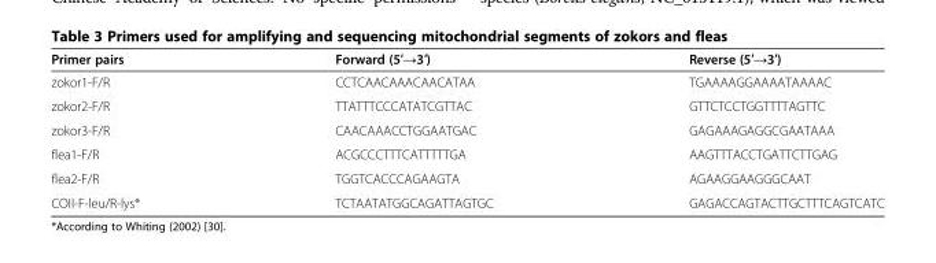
<table><thead><tr><td>Primer pairs</td><td>Forward (5′→3′)</td><td>Reverse (5′→3′)</td></tr></thead><tbody><tr><td>zokor1-F/R</td><td>CCTCAACAAACAACATAA</td><td>TGAAAAGGAAAATAAAAC</td></tr><tr><td>zokor2-F/R</td><td>TTATTTCCCATATCGTTAC</td><td>GTTCTCCTGGTTTTAGTTC</td></tr><tr><td>zokor3-F/R</td><td>CAACAAACCTGGAATGAC</td><td>GAGAAAGAGGCGAATAAA</td></tr><tr><td>flea1-F/R</td><td>ACGCCCTTTCATTTTTGA</td><td>AAGTTTACCTGATTCTTGAG</td></tr><tr><td>flea2-F/R</td><td>TGGTCACCCAGAAGTA</td><td>AGAAGGAAGGGCAAT</td></tr><tr><td>COII-F-leu/R-lys*</td><td>TCTAATATGGCAGATTAGTGC</td><td>GAGACCAGTACTTGCTTTCAGTCATC</td></tr></tbody></table>